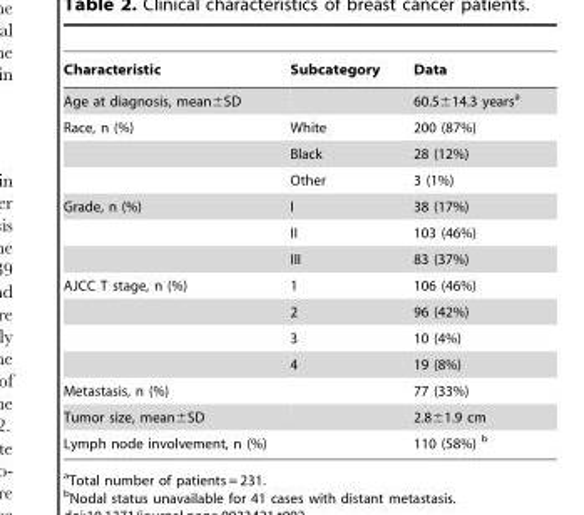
<table><thead><tr><td>Characteristic</td><td>Subcategory</td><td>Data</td></tr></thead><tbody><tr><td>Age at diagnosis, mean±SD</td><td></td><td>60.5±14.3 years<sup>a</sup></td></tr><tr><td rowspan="3">Race, n (%)</td><td>White</td><td>200 (87%)</td></tr><tr><td>Black</td><td>28 (12%)</td></tr><tr><td>Other</td><td>3 (1%)</td></tr><tr><td rowspan="3">Grade, n (%)</td><td>I</td><td>38 (17%)</td></tr><tr><td>II</td><td>103 (46%)</td></tr><tr><td>III</td><td>83 (37%)</td></tr><tr><td rowspan="4">AJCC T stage, n (%)</td><td>1</td><td>106 (46%)</td></tr><tr><td>2</td><td>96 (42%)</td></tr><tr><td>3</td><td>10 (4%)</td></tr><tr><td>4</td><td>19 (8%)</td></tr><tr><td>Metastasis, n (%)</td><td></td><td>77 (33%)</td></tr><tr><td>Tumor size, mean±SD</td><td></td><td>2.8±1.9 cm</td></tr><tr><td>Lymph node involvement, n (%)</td><td></td><td>110 (58%) b</td></tr></tbody></table>